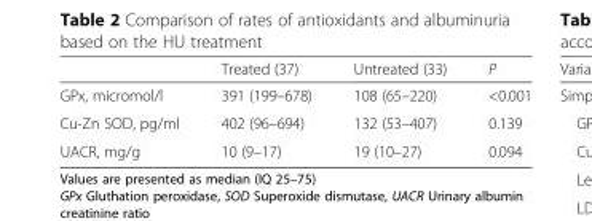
<table><thead><tr><td></td><td>Treated (37)</td><td>Untreated (33)</td><td>P</td></tr></thead><tbody><tr><td>GPx, micromol/l</td><td>391 (199–678)</td><td>108 (65–220)</td><td>&lt;0.001</td></tr><tr><td>Cu-Zn SOD, pg/ml</td><td>402 (96–694)</td><td>132 (53–407)</td><td>0.139</td></tr><tr><td>UACR, mg/g</td><td>10 (9–17)</td><td>19 (10–27)</td><td>0.094</td></tr></tbody></table>